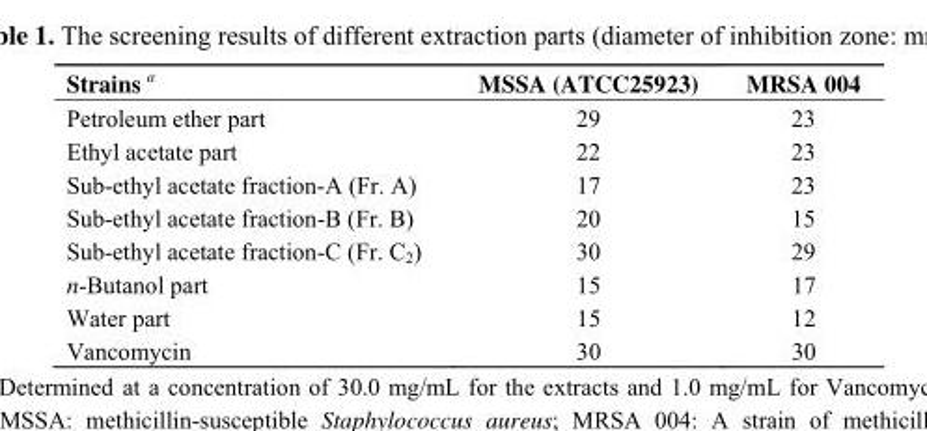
<table><thead><tr><td>Strains <sup>a</sup></td><td>MSSA (ATCC25923)</td><td>MRSA 004</td></tr></thead><tbody><tr><td>Petroleum ether part</td><td>29</td><td>23</td></tr><tr><td>Ethyl acetate part</td><td>22</td><td>23</td></tr><tr><td>Sub-ethyl acetate fraction-A (Fr. A)</td><td>17</td><td>23</td></tr><tr><td>Sub-ethyl acetate fraction-B (Fr. B)</td><td>20</td><td>15</td></tr><tr><td>Sub-ethyl acetate fraction-C (Fr. C<sub>2</sub>)</td><td>30</td><td>29</td></tr><tr><td>n-Butanol part</td><td>15</td><td>17</td></tr><tr><td>Water part</td><td>15</td><td>12</td></tr><tr><td>Vancomycin</td><td>30</td><td>30</td></tr></tbody></table>